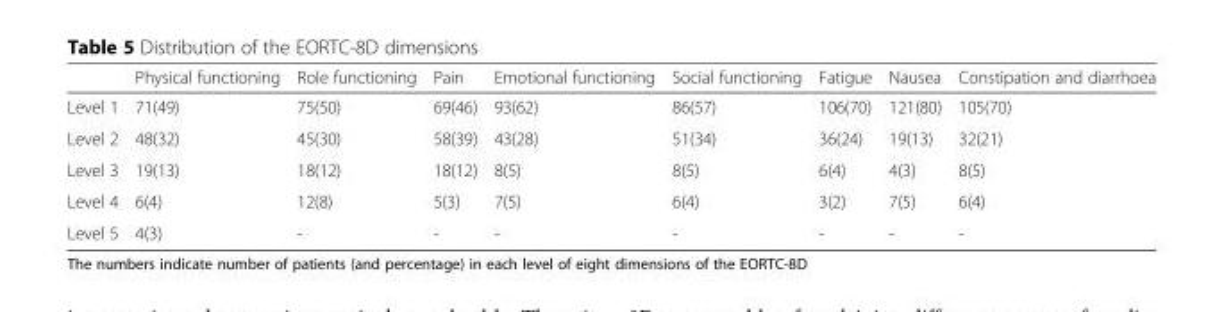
<table><thead><tr><td></td><td>Physical functioning</td><td>Role functioning</td><td>Pain</td><td>Emotional functioning</td><td>Social functioning</td><td>Fatigue</td><td>Nausea</td><td>Constipation and diarrhoea</td></tr></thead><tbody><tr><td>Level 1</td><td>71(49)</td><td>75(50)</td><td>69(46)</td><td>93(62)</td><td>86(57)</td><td>106(70)</td><td>121(80)</td><td>105(70)</td></tr><tr><td>Level 2</td><td>48(32)</td><td>45(30)</td><td>58(39)</td><td>43(28)</td><td>51(34)</td><td>36(24)</td><td>19(13)</td><td>32(21)</td></tr><tr><td>Level 3</td><td>19(13)</td><td>18(12)</td><td>18(12)</td><td>8(5)</td><td>8(5)</td><td>6(4)</td><td>4(3)</td><td>8(5)</td></tr><tr><td>Level 4</td><td>6(4)</td><td>12(8)</td><td>5(3)</td><td>7(5)</td><td>6(4)</td><td>3(2)</td><td>7(5)</td><td>6(4)</td></tr><tr><td>Level 5</td><td>4(3)</td><td>-</td><td>-</td><td>-</td><td>-</td><td>-</td><td>-</td><td>-</td></tr></tbody></table>